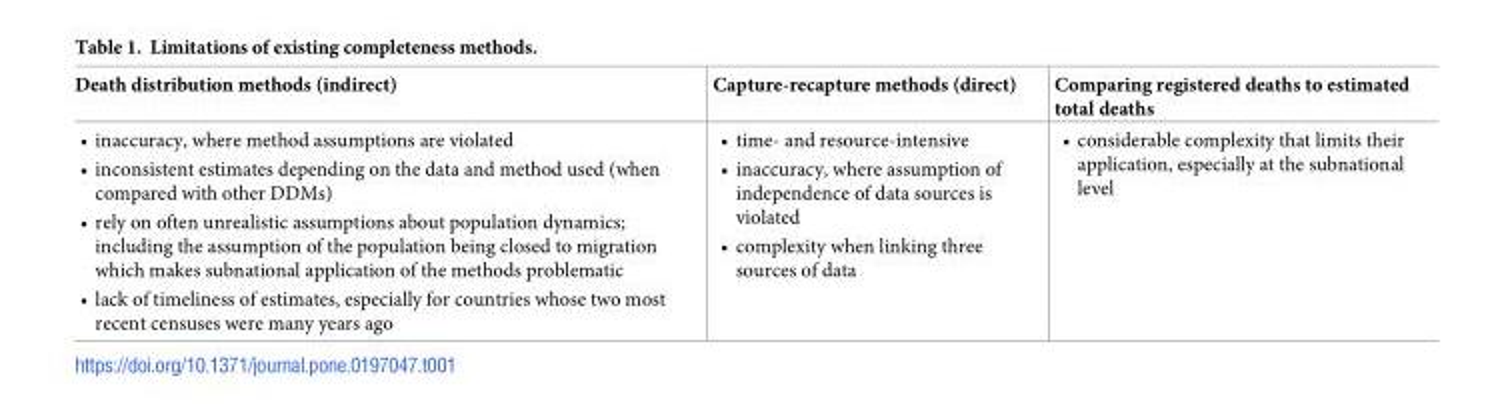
<table><thead><tr><td>Death distribution methods (indirect)</td><td>Capture-recapture methods (direct)</td><td>Comparing registered deaths to estimated total deaths</td></tr></thead><tbody><tr><td>• inaccuracy, where method assumptions are violated • inconsistent estimates depending on the data and method used (when compared with other DDMs) • rely on often unrealistic assumptions about population dynamics; including the assumption of the population being closed to migration which makes subnational application of the methods problematic • lack of timeliness of estimates, especially for countries whose two most recent censuses were many years ago</td><td>• time- and resource-intensive • inaccuracy, where assumption of independence of data sources is violated • complexity when linking three sources of data</td><td>• considerable complexity that limits their application, especially at the subnational level</td></tr></tbody></table>